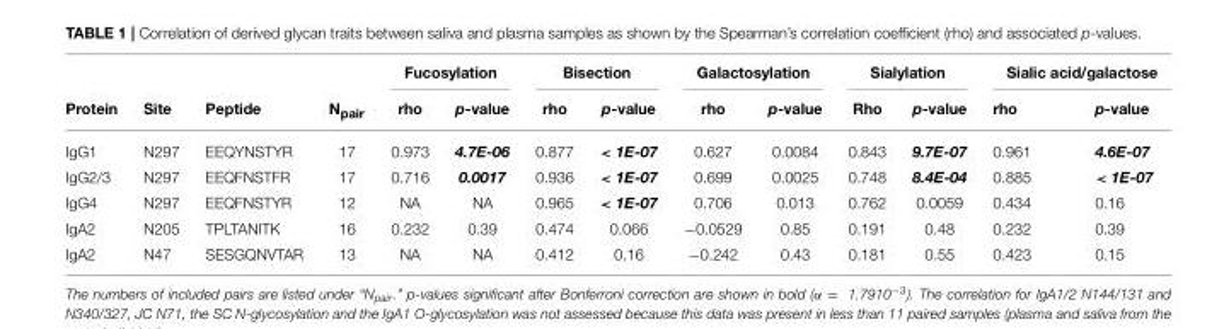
<table><thead><tr><td rowspan="2">Protein</td><td rowspan="2">Site</td><td rowspan="2">Peptide</td><td rowspan="2">N<sub>pair</sub></td><td colspan="2">Fucosylation</td><td colspan="2">Bisection</td><td colspan="2">Galactosylation</td><td colspan="2">Sialylation</td><td colspan="2">Sialic acid/galactose</td></tr><tr><td>rho</td><td>p-value</td><td>rho</td><td>p-value</td><td>rho</td><td>p-value</td><td>Rho</td><td>p-value</td><td>rho</td><td>p-value</td></tr></thead><tbody><tr><td>IgG1</td><td>N297</td><td>EEQYNSTYR</td><td>17</td><td>0.973</td><td>4.7E-06</td><td>0.877</td><td>&lt; 1E-07</td><td>0.627</td><td>0.0084</td><td>0.843</td><td>9.7E-07</td><td>0.961</td><td>4.6E-07</td></tr><tr><td>IgG2/3</td><td>N297</td><td>EEQFNSTFR</td><td>17</td><td>0.716</td><td>0.0017</td><td>0.936</td><td>&lt; 1E-07</td><td>0.699</td><td>0.0025</td><td>0.748</td><td>8.4E-04</td><td>0.885</td><td>&lt; 1E-07</td></tr><tr><td>IgG4</td><td>N297</td><td>EEQFNSTYR</td><td>12</td><td>NA</td><td>NA</td><td>0.965</td><td>&lt; 1E-07</td><td>0.706</td><td>0.013</td><td>0.762</td><td>0.0059</td><td>0.434</td><td>0.16</td></tr><tr><td>IgA2</td><td>N205</td><td>TPLTANITK</td><td>16</td><td>0.232</td><td>0.39</td><td>0.474</td><td>0.066</td><td>−0.0529</td><td>0.85</td><td>0.191</td><td>0.48</td><td>0.232</td><td>0.39</td></tr><tr><td>IgA2</td><td>N47</td><td>SESGQNVTAR</td><td>13</td><td>NA</td><td>NA</td><td>0.412</td><td>0.16</td><td>−0.242</td><td>0.43</td><td>0.181</td><td>0.55</td><td>0.423</td><td>0.15</td></tr></tbody></table>